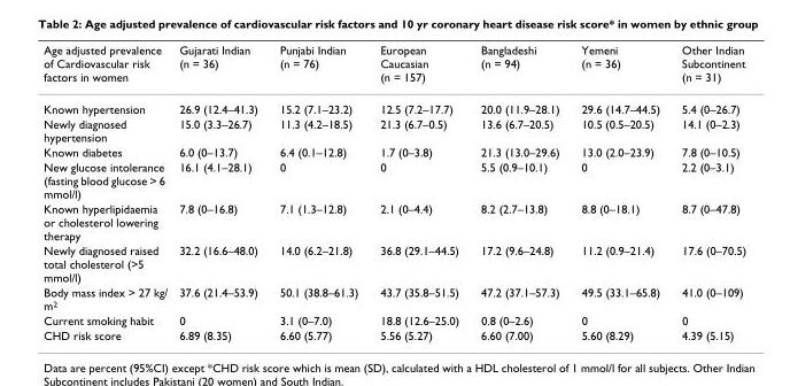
<table><thead><tr><td>Age adjusted prevalence of Cardiovascular risk factors in women</td><td>Gujarati Indian (n = 36)</td><td>Punjabi Indian (n = 76)</td><td>European Caucasian (n = 157)</td><td>Bangladeshi (n = 94)</td><td>Yemeni (n = 36)</td><td>Other Indian Subcontinent (n = 31)</td></tr></thead><tbody><tr><td>Known hypertension</td><td>26.9 (12.4–41.3)</td><td>15.2 (7.1–23.2)</td><td>12.5 (7.2–17.7)</td><td>20.0 (11.9–28.1)</td><td>29.6 (14.7–44.5)</td><td>5.4 (0–26.7)</td></tr><tr><td>Newly diagnosed hypertension</td><td>15.0 (3.3–26.7)</td><td>11.3 (4.2–18.5)</td><td>21.3 (6.7–0.5)</td><td>13.6 (6.7–20.5)</td><td>10.5 (0.5–20.5)</td><td>14.1 (0–2.3)</td></tr><tr><td>Known diabetes</td><td>6.0 (0–13.7)</td><td>6.4 (0.1–12.8)</td><td>1.7 (0–3.8)</td><td>21.3 (13.0–29.6)</td><td>13.0 (2.0–23.9)</td><td>7.8 (0–10.5)</td></tr><tr><td>New glucose intolerance (fasting blood glucose &gt; 6 mmol/l)</td><td>16.1 (4.1–28.1)</td><td>0</td><td>0</td><td>5.5 (0.9–10.1)</td><td>0</td><td>2.2 (0–3.1)</td></tr><tr><td>Known hyperlipidaemia or cholesterol lowering therapy</td><td>7.8 (0–16.8)</td><td>7.1 (1.3–12.8)</td><td>2.1 (0–4.4)</td><td>8.2 (2.7–13.8)</td><td>8.8 (0–18.1)</td><td>8.7 (0–47.8)</td></tr><tr><td>Newly diagnosed raised total cholesterol (&gt;5 mmol/l)</td><td>32.2 (16.6–48.0)</td><td>14.0 (6.2–21.8)</td><td>36.8 (29.1–44.5)</td><td>17.2 (9.6–24.8)</td><td>11.2 (0.9–21.4)</td><td>17.6 (0–70.5)</td></tr><tr><td>Body mass index &gt; 27 kg/ m<sup>2</sup></td><td>37.6 (21.4–53.9)</td><td>50.1 (38.8–61.3)</td><td>43.7 (35.8–51.5)</td><td>47.2 (37.1–57.3)</td><td>49.5 (33.1–65.8)</td><td>41.0 (0–109)</td></tr><tr><td>Current smoking habit</td><td>0</td><td>3.1 (0–7.0)</td><td>18.8 (12.6–25.0)</td><td>0.8 (0–2.6)</td><td>0</td><td>0</td></tr><tr><td>CHD risk score</td><td>6.89 (8.35)</td><td>6.60 (5.77)</td><td>5.56 (5.27)</td><td>6.60 (7.00)</td><td>5.60 (8.29)</td><td>4.39 (5.15)</td></tr></tbody></table>